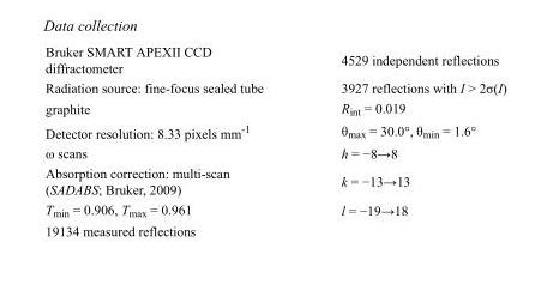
<table><tbody><tr><td>Bruker SMART APEXII CCD diffractometer</td><td>4529 independent reflections</td></tr><tr><td>Radiation source: fine-focus sealed tube</td><td>3927 reflections with I &gt; 2σ(I)</td></tr><tr><td>graphite</td><td>R<sub>int</sub> = 0.019</td></tr><tr><td>Detector resolution: 8.33 pixels mm<sup>-1</sup></td><td>θ<sub>max</sub> = 30.0°, θ<sub>min</sub> = 1.6°</td></tr><tr><td>ω scans</td><td>h = −8→8</td></tr><tr><td>Absorption correction: multi-scan (SADABS; Bruker, 2009)</td><td>k = −13→13</td></tr><tr><td>T<sub>min</sub> = 0.906, T<sub>max</sub> = 0.961</td><td>l = −19→18</td></tr><tr><td>19134 measured reflections</td><td></td></tr></tbody></table>